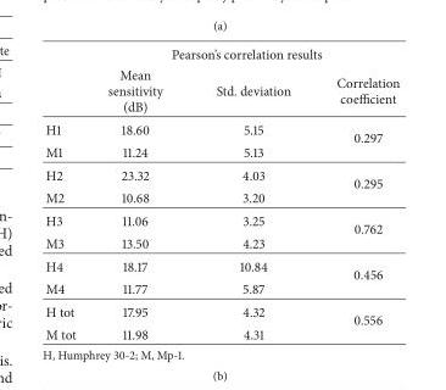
<table><thead><tr><td colspan="4">Pearson’s correlation results</td></tr><tr><td></td><td>Mean sensitivity (dB)</td><td>Std. deviation</td><td>Correlation coefficient</td></tr></thead><tbody><tr><td>H1</td><td>18.60</td><td>5.15</td><td rowspan="2">0.297</td></tr><tr><td>M1</td><td>11.24</td><td>5.13</td></tr><tr><td>H2</td><td>23.32</td><td>4.03</td><td rowspan="2">0.295</td></tr><tr><td>M2</td><td>10.68</td><td>3.20</td></tr><tr><td>H3</td><td>11.06</td><td>3.25</td><td rowspan="2">0.762</td></tr><tr><td>M3</td><td>13.50</td><td>4.23</td></tr><tr><td>H4</td><td>18.17</td><td>10.84</td><td rowspan="2">0.456</td></tr><tr><td>M4</td><td>11.77</td><td>5.87</td></tr><tr><td>H tot</td><td>17.95</td><td>4.32</td><td rowspan="2">0.556</td></tr><tr><td>M tot</td><td>11.98</td><td>4.31</td></tr></tbody></table>